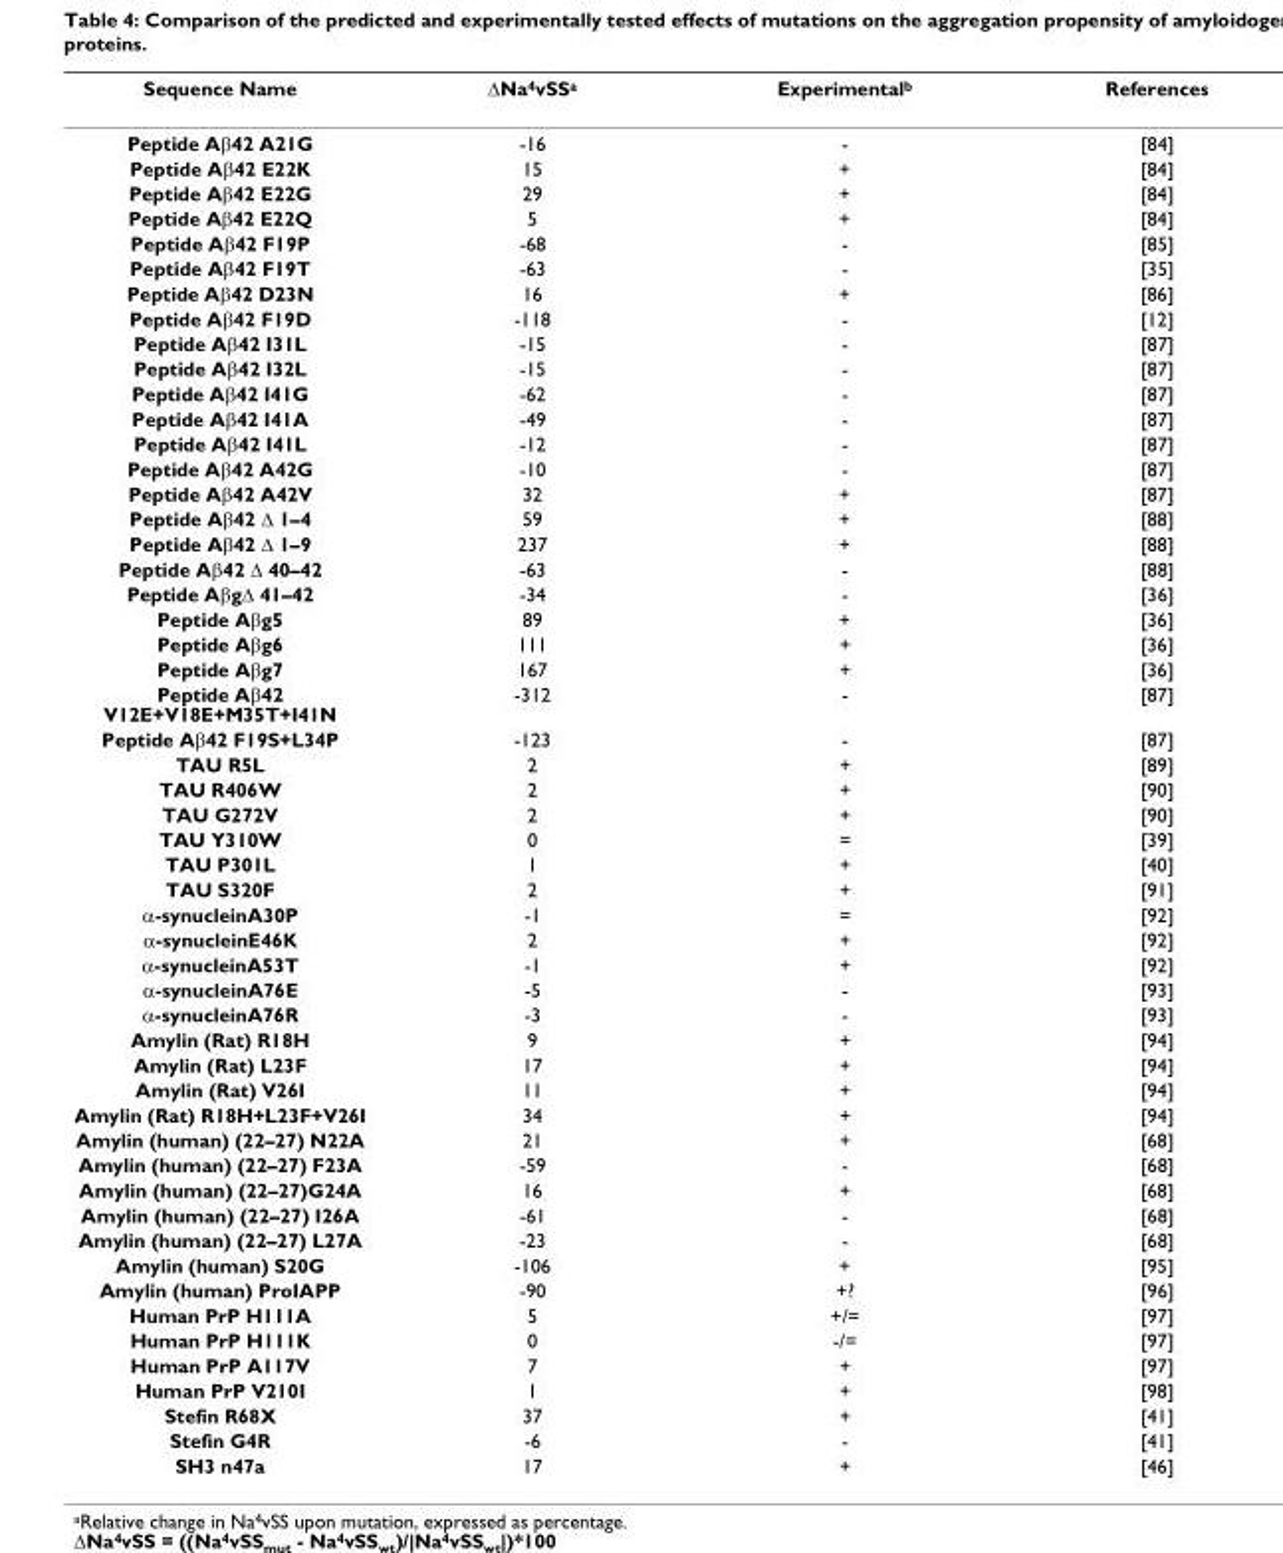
<table><thead><tr><td>Sequence Name</td><td>∆Na4vSSa</td><td>Experimental<sup>b</sup></td><td>References</td></tr></thead><tbody><tr><td>Peptide Aβ42 A21G</td><td>-16</td><td>-</td><td>[84]</td></tr><tr><td>Peptide Aβ42 E22K</td><td>15</td><td>+</td><td>[84]</td></tr><tr><td>Peptide Aβ42 E22G</td><td>29</td><td>+</td><td>[84]</td></tr><tr><td>Peptide Aβ42 E22Q</td><td>5</td><td>+</td><td>[84]</td></tr><tr><td>Peptide Aβ42 F19P</td><td>-68</td><td>-</td><td>[85]</td></tr><tr><td>Peptide Aβ42 F19T</td><td>-63</td><td>-</td><td>[35]</td></tr><tr><td>Peptide Aβ42 D23N</td><td>16</td><td>+</td><td>[86]</td></tr><tr><td>Peptide Aβ42 F19D</td><td>-118</td><td>-</td><td>[12]</td></tr><tr><td>Peptide Aβ42 I31L</td><td>-15</td><td>-</td><td>[87]</td></tr><tr><td>Peptide Aβ42 I32L</td><td>-15</td><td>-</td><td>[87]</td></tr><tr><td>Peptide Aβ42 I41G</td><td>-62</td><td>-</td><td>[87]</td></tr><tr><td>Peptide Aβ42 I41A</td><td>-49</td><td>-</td><td>[87]</td></tr><tr><td>Peptide Aβ42 I41L</td><td>-12</td><td>-</td><td>[87]</td></tr><tr><td>Peptide Aβ42 A42G</td><td>-10</td><td>-</td><td>[87]</td></tr><tr><td>Peptide Aβ42 A42V</td><td>32</td><td>+</td><td>[87]</td></tr><tr><td>Peptide Aβ42 ∆ 1–4</td><td>59</td><td>+</td><td>[88]</td></tr><tr><td>Peptide Aβ42 ∆ 1–9</td><td>237</td><td>+</td><td>[88]</td></tr><tr><td>Peptide Aβ42 ∆ 40–42</td><td>-63</td><td>-</td><td>[88]</td></tr><tr><td>Peptide Aβg∆ 41–42</td><td>-34</td><td>-</td><td>[36]</td></tr><tr><td>Peptide Aβg5</td><td>89</td><td>+</td><td>[36]</td></tr><tr><td>Peptide Aβg6</td><td>111</td><td>+</td><td>[36]</td></tr><tr><td>Peptide Aβg7</td><td>167</td><td>+</td><td>[36]</td></tr><tr><td>Peptide Aβ42 V12E+V18E+M35T+I41N</td><td>-312</td><td>-</td><td>[87]</td></tr><tr><td>Peptide Aβ42 F19S+L34P</td><td>-123</td><td>-</td><td>[87]</td></tr><tr><td>TAU R5L</td><td>2</td><td>+</td><td>[89]</td></tr><tr><td>TAU R406W</td><td>2</td><td>+</td><td>[90]</td></tr><tr><td>TAU G272V</td><td>2</td><td>+</td><td>[90]</td></tr><tr><td>TAU Y310W</td><td>0</td><td>=</td><td>[39]</td></tr><tr><td>TAU P301L</td><td>1</td><td>+</td><td>[40]</td></tr><tr><td>TAU S320F</td><td>2</td><td>+</td><td>[91]</td></tr><tr><td>α-synucleinA30P</td><td>-1</td><td>=</td><td>[92]</td></tr><tr><td>α-synucleinE46K</td><td>2</td><td>+</td><td>[92]</td></tr><tr><td>α-synucleinA53T</td><td>-1</td><td>+</td><td>[92]</td></tr><tr><td>α-synucleinA76E</td><td>-5</td><td>-</td><td>[93]</td></tr><tr><td>α-synucleinA76R</td><td>-3</td><td>-</td><td>[93]</td></tr><tr><td>Amylin (Rat) R18H</td><td>9</td><td>+</td><td>[94]</td></tr><tr><td>Amylin (Rat) L23F</td><td>17</td><td>+</td><td>[94]</td></tr><tr><td>Amylin (Rat) V26I</td><td>11</td><td>+</td><td>[94]</td></tr><tr><td>Amylin (Rat) R18H+L23F+V26I</td><td>34</td><td>+</td><td>[94]</td></tr><tr><td>Amylin (human) (22–27) N22A</td><td>21</td><td>+</td><td>[68]</td></tr><tr><td>Amylin (human) (22–27) F23A</td><td>-59</td><td>-</td><td>[68]</td></tr><tr><td>Amylin (human) (22–27)G24A</td><td>16</td><td>+</td><td>[68]</td></tr><tr><td>Amylin (human) (22–27) I26A</td><td>-61</td><td>-</td><td>[68]</td></tr><tr><td>Amylin (human) (22–27) L27A</td><td>-23</td><td>-</td><td>[68]</td></tr><tr><td>Amylin (human) S20G</td><td>-106</td><td>+</td><td>[95]</td></tr><tr><td>Amylin (human) ProIAPP</td><td>-90</td><td>+?</td><td>[96]</td></tr><tr><td>Human PrP H111A</td><td>5</td><td>+/=</td><td>[97]</td></tr><tr><td>Human PrP H111K</td><td>0</td><td>-/=</td><td>[97]</td></tr><tr><td>Human PrP A117V</td><td>7</td><td>+</td><td>[97]</td></tr><tr><td>Human PrP V210I</td><td>1</td><td>+</td><td>[98]</td></tr><tr><td>Stefin R68X</td><td>37</td><td>+</td><td>[41]</td></tr><tr><td>Stefin G4R</td><td>-6</td><td>-</td><td>[41]</td></tr><tr><td>SH3 n47a</td><td>17</td><td>+</td><td>[46]</td></tr></tbody></table>